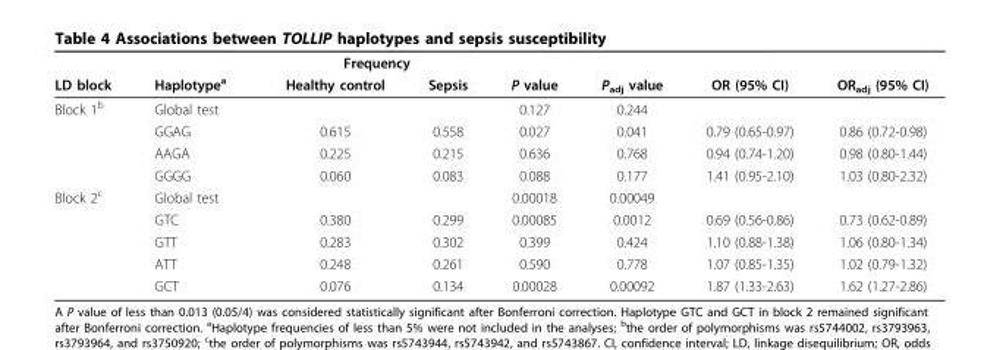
<table><thead><tr><td rowspan="2">LD block</td><td rowspan="2">Haplotype<sup>a</sup></td><td colspan="2">Frequency</td><td rowspan="2">P value</td><td rowspan="2">P<sub>adj</sub> value</td><td rowspan="2">OR (95% CI)</td><td rowspan="2">OR<sub>adj</sub> (95% CI)</td></tr><tr><td>Healthy control</td><td>Sepsis</td></tr></thead><tbody><tr><td rowspan="4">Block 1<sup>b</sup></td><td>Global test</td><td></td><td></td><td>0.127</td><td>0.244</td><td></td><td></td></tr><tr><td>GGAG</td><td>0.615</td><td>0.558</td><td>0.027</td><td>0.041</td><td>0.79 (0.65-0.97)</td><td>0.86 (0.72-0.98)</td></tr><tr><td>AAGA</td><td>0.225</td><td>0.215</td><td>0.636</td><td>0.768</td><td>0.94 (0.74-1.20)</td><td>0.98 (0.80-1.44)</td></tr><tr><td>GGGG</td><td>0.060</td><td>0.083</td><td>0.088</td><td>0.177</td><td>1.41 (0.95-2.10)</td><td>1.03 (0.80-2.32)</td></tr><tr><td rowspan="5">Block 2<sup>c</sup></td><td>Global test</td><td></td><td></td><td>0.00018</td><td>0.00049</td><td></td><td></td></tr><tr><td>GTC</td><td>0.380</td><td>0.299</td><td>0.00085</td><td>0.0012</td><td>0.69 (0.56-0.86)</td><td>0.73 (0.62-0.89)</td></tr><tr><td>GTT</td><td>0.283</td><td>0.302</td><td>0.399</td><td>0.424</td><td>1.10 (0.88-1.38)</td><td>1.06 (0.80-1.34)</td></tr><tr><td>ATT</td><td>0.248</td><td>0.261</td><td>0.590</td><td>0.778</td><td>1.07 (0.85-1.35)</td><td>1.02 (0.79-1.32)</td></tr><tr><td>GCT</td><td>0.076</td><td>0.134</td><td>0.00028</td><td>0.00092</td><td>1.87 (1.33-2.63)</td><td>1.62 (1.27-2.86)</td></tr></tbody></table>